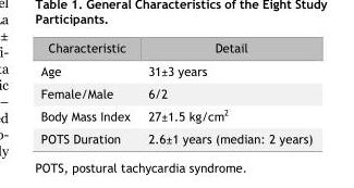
<table><thead><tr><td>Characteristic</td><td>Detail</td></tr></thead><tbody><tr><td>Age</td><td>31±3 years</td></tr><tr><td>Female/Male</td><td>6/2</td></tr><tr><td>Body Mass Index</td><td>27±1.5 kg/cm<sup>2</sup></td></tr><tr><td>POTS Duration</td><td>2.6±1 years (median: 2 years)</td></tr></tbody></table>